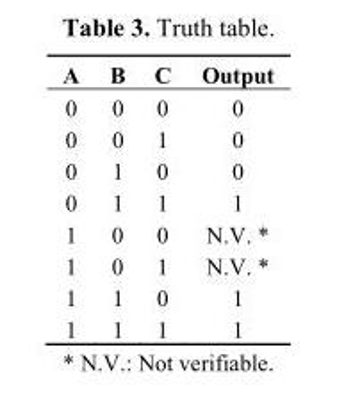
<table><thead><tr><td>A</td><td>B</td><td>C</td><td>Output</td></tr></thead><tbody><tr><td>0</td><td>0</td><td>0</td><td>0</td></tr><tr><td>0</td><td>0</td><td>1</td><td>0</td></tr><tr><td>0</td><td>1</td><td>0</td><td>0</td></tr><tr><td>0</td><td>1</td><td>1</td><td>1</td></tr><tr><td>1</td><td>0</td><td>0</td><td>N.V. *</td></tr><tr><td>1</td><td>0</td><td>1</td><td>N.V. *</td></tr><tr><td>1</td><td>1</td><td>0</td><td>1</td></tr><tr><td>1</td><td>1</td><td>1</td><td>1</td></tr></tbody></table>